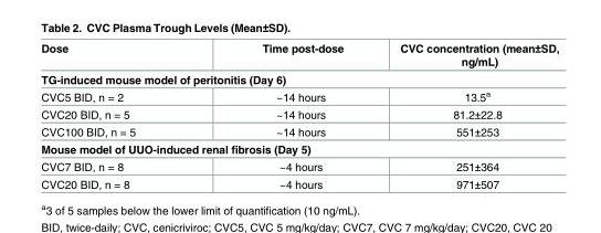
<table><thead><tr><td>Dose</td><td>Time post-dose</td><td>CVC concentration (mean±SD, ng/mL)</td></tr></thead><tbody><tr><td colspan="3">TG-induced mouse model of peritonitis (Day 6)</td></tr><tr><td>CVC5 BID, n = 2</td><td>~14 hours</td><td>13.5<sup>a</sup></td></tr><tr><td>CVC20 BID, n = 5</td><td>~14 hours</td><td>81.2±22.8</td></tr><tr><td>CVC100 BID, n = 5</td><td>~14 hours</td><td>551±253</td></tr><tr><td colspan="3">Mouse model of UUO-induced renal fibrosis (Day 5)</td></tr><tr><td>CVC7 BID, n = 8</td><td>~4 hours</td><td>251±364</td></tr><tr><td>CVC20 BID, n = 8</td><td>~4 hours</td><td>971±507</td></tr></tbody></table>